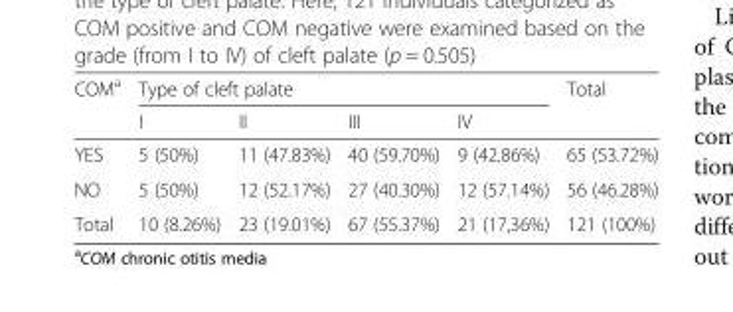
<table><thead><tr><td rowspan="2">COM<sup>a</sup></td><td colspan="4">Type of cleft palate</td><td rowspan="2">Total</td></tr><tr><td>I</td><td>II</td><td>III</td><td>IV</td></tr></thead><tbody><tr><td>YES</td><td>5 (50%)</td><td>11 (47.83%)</td><td>40 (59.70%)</td><td>9 (42.86%)</td><td>65 (53.72%)</td></tr><tr><td>NO</td><td>5 (50%)</td><td>12 (52.17%)</td><td>27 (40.30%)</td><td>12 (57.14%)</td><td>56 (46.28%)</td></tr><tr><td>Total</td><td>10 (8.26%)</td><td>23 (19.01%)</td><td>67 (55.37%)</td><td>21 (17,36%)</td><td>121 (100%)</td></tr></tbody></table>